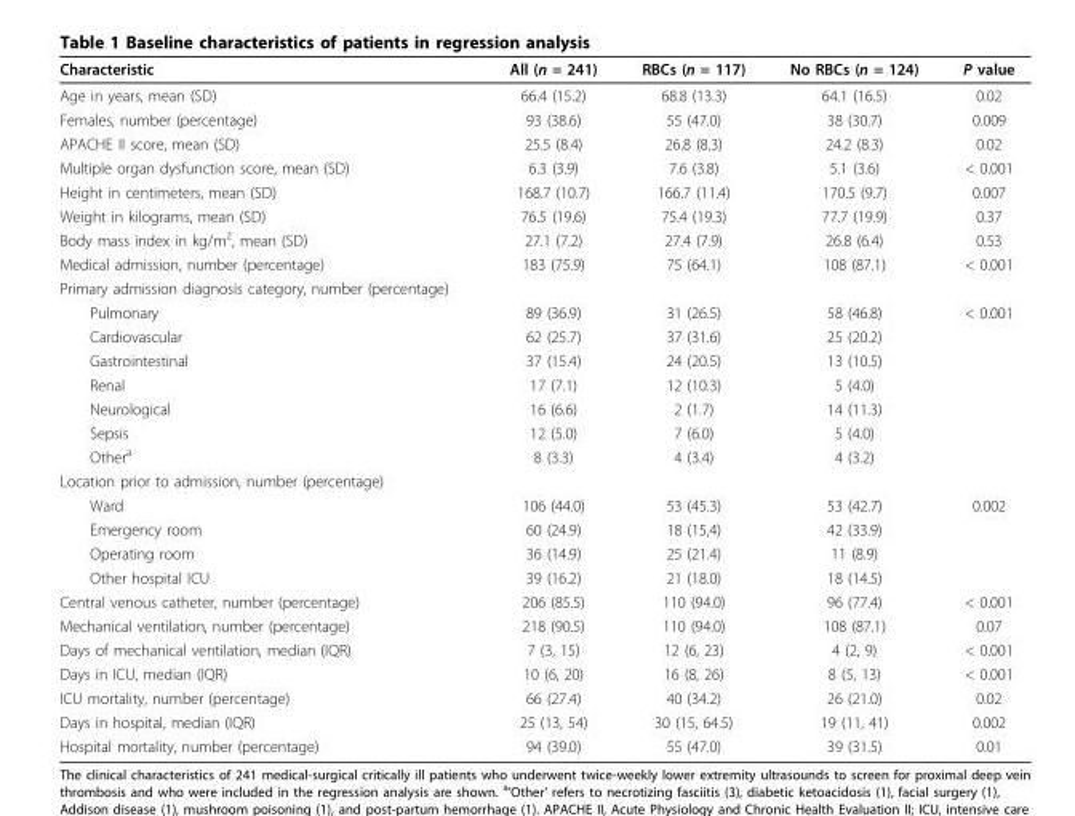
<table><thead><tr><td>Characteristic</td><td>All (n = 241)</td><td>RBCs (n = 117)</td><td>No RBCs (n = 124)</td><td>P value</td></tr></thead><tbody><tr><td>Age in years, mean (SD)</td><td>66.4 (15.2)</td><td>68.8 (13.3)</td><td>64.1 (16.5)</td><td>0.02</td></tr><tr><td>Females, number (percentage)</td><td>93 (38.6)</td><td>55 (47.0)</td><td>38 (30.7)</td><td>0.009</td></tr><tr><td>APACHE II score, mean (SD)</td><td>25.5 (8.4)</td><td>26.8 (8.3)</td><td>24.2 (8.3)</td><td>0.02</td></tr><tr><td>Multiple organ dysfunction score, mean (SD)</td><td>6.3 (3.9)</td><td>7.6 (3.8)</td><td>5.1 (3.6)</td><td>&lt; 0.001</td></tr><tr><td>Height in centimeters, mean (SD)</td><td>168.7 (10.7)</td><td>166.7 (11.4)</td><td>170.5 (9.7)</td><td>0.007</td></tr><tr><td>Weight in kilograms, mean (SD)</td><td>76.5 (19.6)</td><td>75.4 (19.3)</td><td>77.7 (19.9)</td><td>0.37</td></tr><tr><td>Body mass index in kg/m<sup>2</sup>, mean (SD)</td><td>27.1 (7.2)</td><td>27.4 (7.9)</td><td>26.8 (6.4)</td><td>0.53</td></tr><tr><td>Medical admission, number (percentage)</td><td>183 (75.9)</td><td>75 (64.1)</td><td>108 (87.1)</td><td>&lt; 0.001</td></tr><tr><td colspan="5">Primary admission diagnosis category, number (percentage)</td></tr><tr><td>Pulmonary</td><td>89 (36.9)</td><td>31 (26.5)</td><td>58 (46.8)</td><td>&lt; 0.001</td></tr><tr><td>Cardiovascular</td><td>62 (25.7)</td><td>37 (31.6)</td><td>25 (20.2)</td><td></td></tr><tr><td>Gastrointestinal</td><td>37 (15.4)</td><td>24 (20.5)</td><td>13 (10.5)</td><td></td></tr><tr><td>Renal</td><td>17 (7.1)</td><td>12 (10.3)</td><td>5 (4.0)</td><td></td></tr><tr><td>Neurological</td><td>16 (6.6)</td><td>2 (1.7)</td><td>14 (11.3)</td><td></td></tr><tr><td>Sepsis</td><td>12 (5.0)</td><td>7 (6.0)</td><td>5 (4.0)</td><td></td></tr><tr><td>Other<sup>a</sup></td><td>8 (3.3)</td><td>4 (3.4)</td><td>4 (3.2)</td><td></td></tr><tr><td colspan="5">Location prior to admission, number (percentage)</td></tr><tr><td>Ward</td><td>106 (44.0)</td><td>53 (45.3)</td><td>53 (42.7)</td><td>0.002</td></tr><tr><td>Emergency room</td><td>60 (24.9)</td><td>18 (15,4)</td><td>42 (33.9)</td><td></td></tr><tr><td>Operating room</td><td>36 (14.9)</td><td>25 (21.4)</td><td>11 (8.9)</td><td></td></tr><tr><td>Other hospital ICU</td><td>39 (16.2)</td><td>21 (18.0)</td><td>18 (14.5)</td><td></td></tr><tr><td>Central venous catheter, number (percentage)</td><td>206 (85.5)</td><td>110 (94.0)</td><td>96 (77.4)</td><td>&lt; 0.001</td></tr><tr><td>Mechanical ventilation, number (percentage)</td><td>218 (90.5)</td><td>110 (94.0)</td><td>108 (87.1)</td><td>0.07</td></tr><tr><td>Days of mechanical ventilation, median (IQR)</td><td>7 (3, 15)</td><td>12 (6, 23)</td><td>4 (2, 9)</td><td>&lt; 0.001</td></tr><tr><td>Days in ICU, median (IQR)</td><td>10 (6, 20)</td><td>16 (8, 26)</td><td>8 (5, 13)</td><td>&lt; 0.001</td></tr><tr><td>ICU mortality, number (percentage)</td><td>66 (27.4)</td><td>40 (34.2)</td><td>26 (21.0)</td><td>0.02</td></tr><tr><td>Days in hospital, median (IQR)</td><td>25 (13, 54)</td><td>30 (15, 64.5)</td><td>19 (11, 41)</td><td>0.002</td></tr><tr><td>Hospital mortality, number (percentage)</td><td>94 (39.0)</td><td>55 (47.0)</td><td>39 (31.5)</td><td>0.01</td></tr></tbody></table>